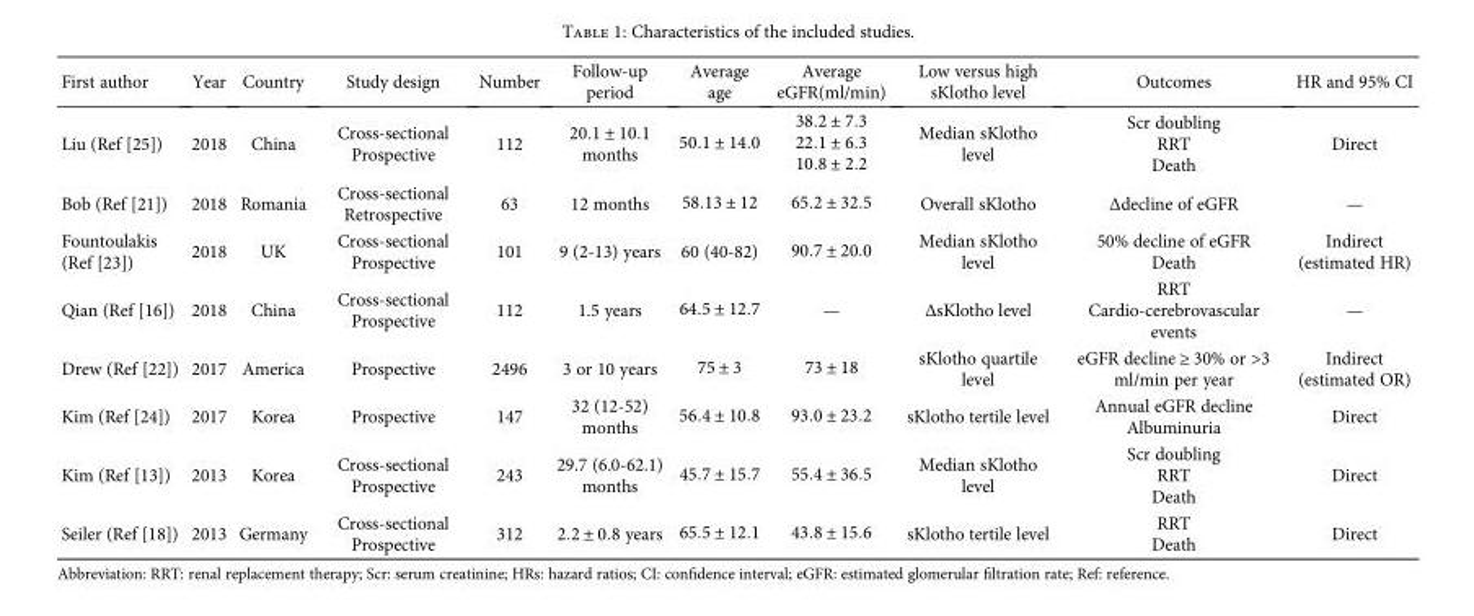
<table><thead><tr><td>First author</td><td>Year</td><td>Country</td><td>Study design</td><td>Number</td><td>Follow-up period</td><td>Average age</td><td>Average eGFR(ml/min)</td><td>Low versus high sKlotho level</td><td>Outcomes</td><td>HR and 95% CI</td></tr></thead><tbody><tr><td>Liu (Ref [25])</td><td>2018</td><td>China</td><td>Cross-sectional Prospective</td><td>112</td><td>20 1 ± 10 1 months</td><td>50 1 ± 14 0</td><td>38 2 ± 7 3 22 1 ± 6 3 10 8 ± 2 2</td><td>Median sKlotho level</td><td>Scr doubling RRT Death</td><td>Direct</td></tr><tr><td>Bob (Ref [21])</td><td>2018</td><td>Romania</td><td>Cross-sectional Retrospective</td><td>63</td><td>12 months</td><td>58 13 ± 12</td><td>65 2 ± 32 5</td><td>Overall sKlotho</td><td>Δdecline of eGFR</td><td>—</td></tr><tr><td>Fountoulakis (Ref [23])</td><td>2018</td><td>UK</td><td>Cross-sectional Prospective</td><td>101</td><td>9 (2-13) years</td><td>60 (40-82)</td><td>90 7 ± 20 0</td><td>Median sKlotho level</td><td>50% decline of eGFR Death</td><td>Indirect (estimated HR)</td></tr><tr><td>Qian (Ref [16])</td><td>2018</td><td>China</td><td>Cross-sectional Prospective</td><td>112</td><td>1.5 years</td><td>64 5 ± 12 7</td><td>—</td><td>ΔsKlotho level</td><td>RRT Cardio-cerebrovascular events</td><td>—</td></tr><tr><td>Drew (Ref [22])</td><td>2017</td><td>America</td><td>Prospective</td><td>2496</td><td>3 or 10 years</td><td>75 ± 3</td><td>73 ± 18</td><td>sKlotho quartile level</td><td>eGFR decline ≥ 30% or &gt;3 ml/min per year</td><td>Indirect (estimated OR)</td></tr><tr><td>Kim (Ref [24])</td><td>2017</td><td>Korea</td><td>Prospective</td><td>147</td><td>32 (12-52) months</td><td>56 4 ± 10 8</td><td>93 0 ± 23 2</td><td>sKlotho tertile level</td><td>Annual eGFR decline Albuminuria</td><td>Direct</td></tr><tr><td>Kim (Ref [13])</td><td>2013</td><td>Korea</td><td>Cross-sectional Prospective</td><td>243</td><td>29.7 (6.0-62.1) months</td><td>45 7 ± 15 7</td><td>55 4 ± 36 5</td><td>Median sKlotho level</td><td>Scr doubling RRT Death</td><td>Direct</td></tr><tr><td>Seiler (Ref [18])</td><td>2013</td><td>Germany</td><td>Cross-sectional Prospective</td><td>312</td><td>2 2 ± 0 8 years</td><td>65 5 ± 12 1</td><td>43 8 ± 15 6</td><td>sKlotho tertile level</td><td>RRT Death</td><td>Direct</td></tr></tbody></table>